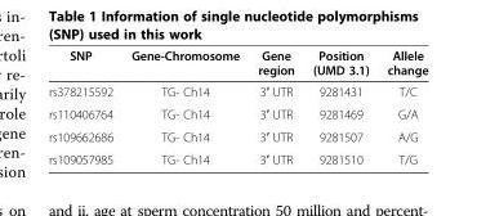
<table><thead><tr><td>SNP</td><td>Gene-Chromosome</td><td>Gene region</td><td>Position (UMD 3.1)</td><td>Allele change</td></tr></thead><tbody><tr><td>rs378215592</td><td>TG- Ch14</td><td>3′ UTR</td><td>9281431</td><td>T/C</td></tr><tr><td>rs110406764</td><td>TG- Ch14</td><td>3′ UTR</td><td>9281469</td><td>G/A</td></tr><tr><td>rs109662686</td><td>TG- Ch14</td><td>3′ UTR</td><td>9281507</td><td>A/G</td></tr><tr><td>rs109057985</td><td>TG- Ch14</td><td>3′ UTR</td><td>9281510</td><td>T/G</td></tr></tbody></table>